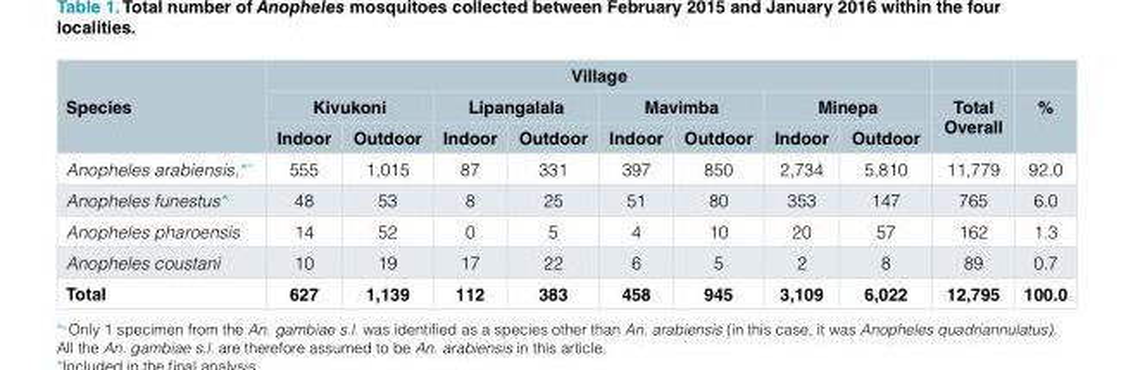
<table><thead><tr><td rowspan="3">Species</td><td colspan="10">Village</td></tr><tr><td colspan="2">Kivukoni</td><td colspan="2">Lipangalala</td><td colspan="2">Mavimba</td><td colspan="2">Minepa</td><td rowspan="2">Total Overall</td><td rowspan="2">%</td></tr><tr><td>Indoor</td><td>Outdoor</td><td>Indoor</td><td>Outdoor</td><td>Indoor</td><td>Outdoor</td><td>Indoor</td><td>Outdoor</td></tr></thead><tbody><tr><td>Anopheles arabiensis.*<sup>+</sup></td><td>555</td><td>1,015</td><td>87</td><td>331</td><td>397</td><td>850</td><td>2,734</td><td>5,810</td><td>11,779</td><td>92.0</td></tr><tr><td>Anopheles funestus*</td><td>48</td><td>53</td><td>8</td><td>25</td><td>51</td><td>80</td><td>353</td><td>147</td><td>765</td><td>6.0</td></tr><tr><td>Anopheles pharoensis</td><td>14</td><td>52</td><td>0</td><td>5</td><td>4</td><td>10</td><td>20</td><td>57</td><td>162</td><td>1.3</td></tr><tr><td>Anopheles coustani</td><td>10</td><td>19</td><td>17</td><td>22</td><td>6</td><td>5</td><td>2</td><td>8</td><td>89</td><td>0.7</td></tr><tr><td>Total</td><td>627</td><td>1,139</td><td>112</td><td>383</td><td>458</td><td>945</td><td>3,109</td><td>6,022</td><td>12,795</td><td>100.0</td></tr></tbody></table>